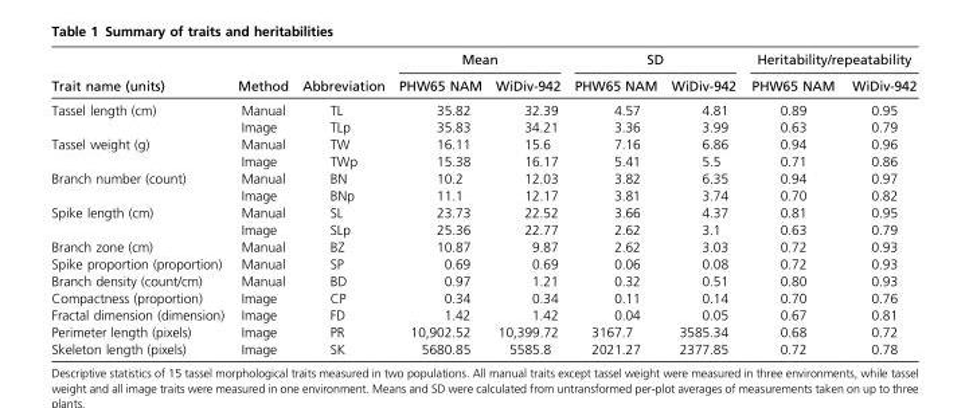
<table><thead><tr><td rowspan="2">Trait name (units)</td><td rowspan="2">Method</td><td rowspan="2">Abbreviation</td><td colspan="2">Mean</td><td colspan="2">SD</td><td colspan="2">Heritability/repeatability</td></tr><tr><td>PHW65 NAM</td><td>WiDiv-942</td><td>PHW65 NAM</td><td>WiDiv-942</td><td>PHW65 NAM</td><td>WiDiv-942</td></tr></thead><tbody><tr><td rowspan="2">Tassel length (cm)</td><td>Manual</td><td>TL</td><td>35.82</td><td>32.39</td><td>4.57</td><td>4.81</td><td>0.89</td><td>0.95</td></tr><tr><td>Image</td><td>TLp</td><td>35.83</td><td>34.21</td><td>3.36</td><td>3.99</td><td>0.63</td><td>0.79</td></tr><tr><td rowspan="2">Tassel weight (g)</td><td>Manual</td><td>TW</td><td>16.11</td><td>15.6</td><td>7.16</td><td>6.86</td><td>0.94</td><td>0.96</td></tr><tr><td>Image</td><td>TWp</td><td>15.38</td><td>16.17</td><td>5.41</td><td>5.5</td><td>0.71</td><td>0.86</td></tr><tr><td rowspan="2">Branch number (count)</td><td>Manual</td><td>BN</td><td>10.2</td><td>12.03</td><td>3.82</td><td>6.35</td><td>0.94</td><td>0.97</td></tr><tr><td>Image</td><td>BNp</td><td>11.1</td><td>12.17</td><td>3.81</td><td>3.74</td><td>0.70</td><td>0.82</td></tr><tr><td rowspan="2">Spike length (cm)</td><td>Manual</td><td>SL</td><td>23.73</td><td>22.52</td><td>3.66</td><td>4.37</td><td>0.81</td><td>0.95</td></tr><tr><td>Image</td><td>SLp</td><td>25.36</td><td>22.77</td><td>2.62</td><td>3.1</td><td>0.63</td><td>0.79</td></tr><tr><td>Branch zone (cm)</td><td>Manual</td><td>BZ</td><td>10.87</td><td>9.87</td><td>2.62</td><td>3.03</td><td>0.72</td><td>0.93</td></tr><tr><td>Spike proportion (proportion)</td><td>Manual</td><td>SP</td><td>0.69</td><td>0.69</td><td>0.06</td><td>0.08</td><td>0.72</td><td>0.93</td></tr><tr><td>Branch density (count/cm)</td><td>Manual</td><td>BD</td><td>0.97</td><td>1.21</td><td>0.32</td><td>0.51</td><td>0.80</td><td>0.93</td></tr><tr><td>Compactness (proportion)</td><td>Image</td><td>CP</td><td>0.34</td><td>0.34</td><td>0.11</td><td>0.14</td><td>0.70</td><td>0.76</td></tr><tr><td>Fractal dimension (dimension)</td><td>Image</td><td>FD</td><td>1.42</td><td>1.42</td><td>0.04</td><td>0.05</td><td>0.67</td><td>0.81</td></tr><tr><td>Perimeter length (pixels)</td><td>Image</td><td>PR</td><td>10,902.52</td><td>10,399.72</td><td>3167.7</td><td>3585.34</td><td>0.68</td><td>0.72</td></tr><tr><td>Skeleton length (pixels)</td><td>Image</td><td>SK</td><td>5680.85</td><td>5585.8</td><td>2021.27</td><td>2377.85</td><td>0.72</td><td>0.78</td></tr></tbody></table>